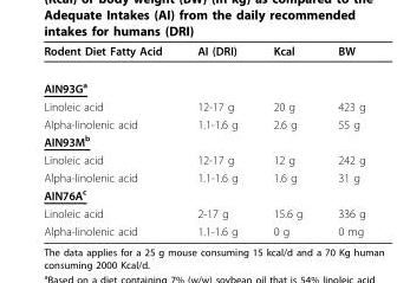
<table><thead><tr><td>Rodent Diet Fatty Acid</td><td>AI (DRI)</td><td>Kcal</td><td>BW</td></tr></thead><tbody><tr><td colspan="4">AIN93G<sup>a</sup></td></tr><tr><td>Linoleic acid</td><td>12-17 g</td><td>20 g</td><td>423 g</td></tr><tr><td>Alpha-linolenic acid</td><td>1.1-1.6 g</td><td>2.6 g</td><td>55 g</td></tr><tr><td colspan="4">AIN93M<sup>b</sup></td></tr><tr><td>Linoleic acid</td><td>12-17 g</td><td>12 g</td><td>242 g</td></tr><tr><td>Alpha-linolenic acid</td><td>1.1-1.6 g</td><td>1.6 g</td><td>31 g</td></tr><tr><td colspan="4">AIN76A<sup>c</sup></td></tr><tr><td>Linoleic acid</td><td>2-17 g</td><td>15.6 g</td><td>336 g</td></tr><tr><td>Alpha-linolenic acid</td><td>1.1-1.6 g</td><td>0 g</td><td>0 mg</td></tr></tbody></table>